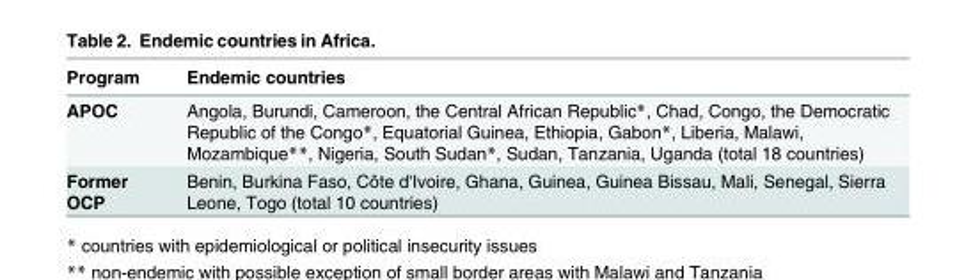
<table><thead><tr><td>Program</td><td>Endemic countries</td></tr></thead><tbody><tr><td>APOC</td><td>Angola, Burundi, Cameroon, the Central African Republic*, Chad, Congo, the Democratic Republic of the Congo*, Equatorial Guinea, Ethiopia, Gabon*, Liberia, Malawi, Mozambique**, Nigeria, South Sudan*, Sudan, Tanzania, Uganda (total 18 countries)</td></tr><tr><td>Former OCP</td><td>Benin, Burkina Faso, Côte d&#x27;Ivoire, Ghana, Guinea, Guinea Bissau, Mali, Senegal, Sierra Leone, Togo (total 10 countries)</td></tr></tbody></table>